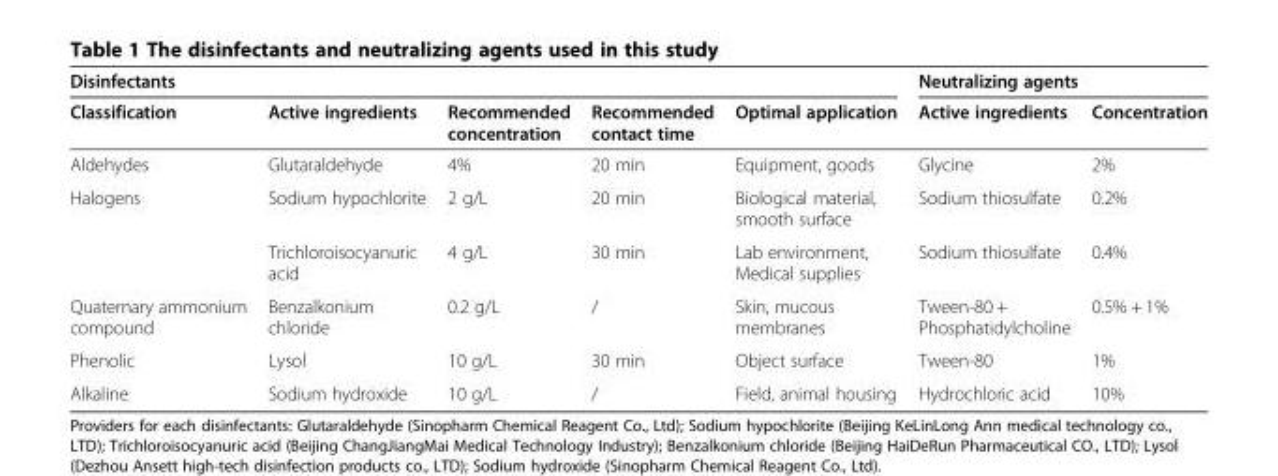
<table><thead><tr><td colspan="5">Disinfectants</td><td colspan="2">Neutralizing agents</td></tr><tr><td>Classification</td><td>Active ingredients</td><td>Recommended concentration</td><td>Recommended contact time</td><td>Optimal application</td><td>Active ingredients</td><td>Concentration</td></tr></thead><tbody><tr><td>Aldehydes</td><td>Glutaraldehyde</td><td>4%</td><td>20 min</td><td>Equipment, goods</td><td>Glycine</td><td>2%</td></tr><tr><td rowspan="2">Halogens</td><td>Sodium hypochlorite</td><td>2 g/L</td><td>20 min</td><td>Biological material, smooth surface</td><td>Sodium thiosulfate</td><td>0.2%</td></tr><tr><td>Trichloroisocyanuric acid</td><td>4 g/L</td><td>30 min</td><td>Lab environment, Medical supplies</td><td>Sodium thiosulfate</td><td>0.4%</td></tr><tr><td>Quaternary ammonium compound</td><td>Benzalkonium chloride</td><td>0.2 g/L</td><td>/</td><td>Skin, mucous membranes</td><td>Tween-80 + Phosphatidylcholine</td><td>0.5% + 1%</td></tr><tr><td>Phenolic</td><td>Lysol</td><td>10 g/L</td><td>30 min</td><td>Object surface</td><td>Tween-80</td><td>1%</td></tr><tr><td>Alkaline</td><td>Sodium hydroxide</td><td>10 g/L</td><td>/</td><td>Field, animal housing</td><td>Hydrochloric acid</td><td>10%</td></tr></tbody></table>